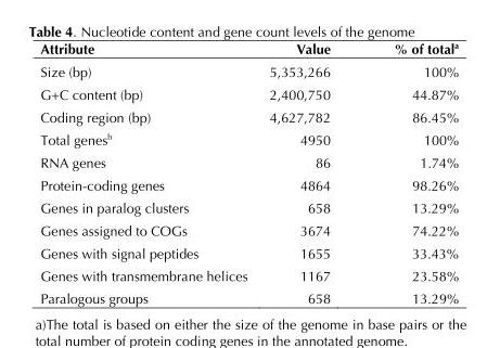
<table><thead><tr><td>Attribute</td><td>Value</td><td>% of total<sup>a</sup></td></tr></thead><tbody><tr><td>Size (bp)</td><td>5,353,266</td><td>100%</td></tr><tr><td>G+C content (bp)</td><td>2,400,750</td><td>44.87%</td></tr><tr><td>Coding region (bp)</td><td>4,627,782</td><td>86.45%</td></tr><tr><td>Total genes<sup>b</sup></td><td>4950</td><td>100%</td></tr><tr><td>RNA genes</td><td>86</td><td>1.74%</td></tr><tr><td>Protein-coding genes</td><td>4864</td><td>98.26%</td></tr><tr><td>Genes in paralog clusters</td><td>658</td><td>13.29%</td></tr><tr><td>Genes assigned to COGs</td><td>3674</td><td>74.22%</td></tr><tr><td>Genes with signal peptides</td><td>1655</td><td>33.43%</td></tr><tr><td>Genes with transmembrane helices</td><td>1167</td><td>23.58%</td></tr><tr><td>Paralogous groups</td><td>658</td><td>13.29%</td></tr></tbody></table>